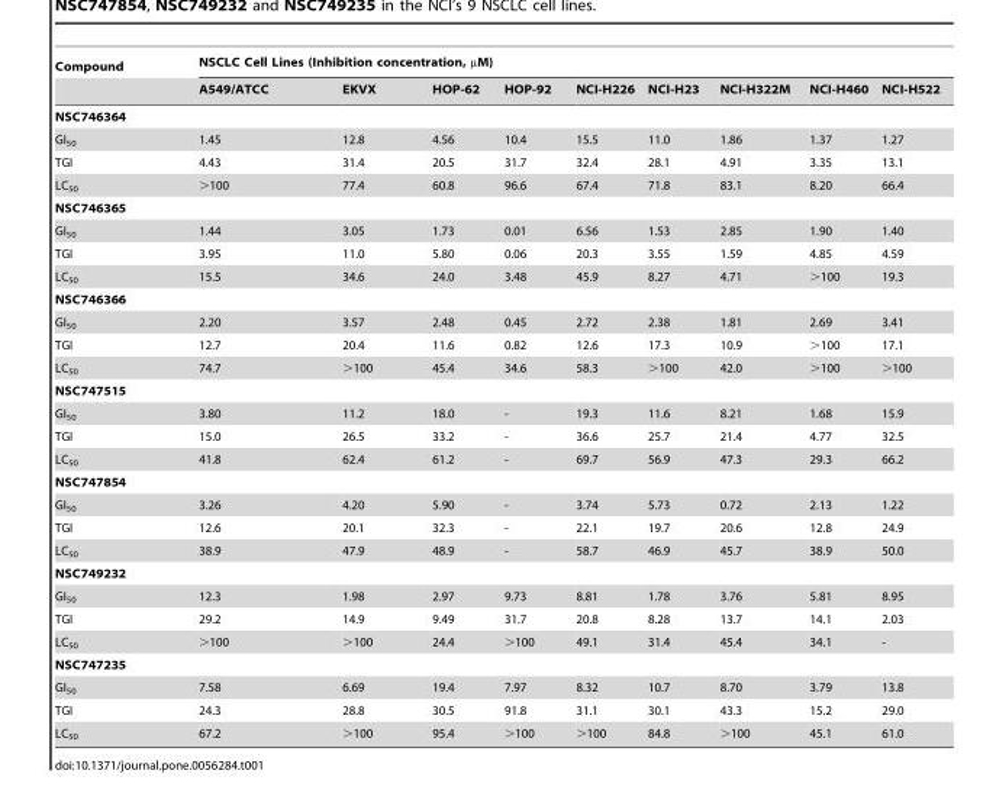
<table><thead><tr><td rowspan="2">Compound</td><td colspan="9">NSCLC Cell Lines (Inhibition concentration, µM)</td></tr><tr><td>A549/ATCC</td><td>EKVX</td><td>HOP-62</td><td>HOP-92</td><td>NCI-H226</td><td>NCI-H23</td><td>NCI-H322M</td><td>NCI-H460</td><td>NCI-H522</td></tr></thead><tbody><tr><td colspan="10">NSC746364</td></tr><tr><td>GI<sub>50</sub></td><td>1.45</td><td>12.8</td><td>4.56</td><td>10.4</td><td>15.5</td><td>11.0</td><td>1.86</td><td>1.37</td><td>1.27</td></tr><tr><td>TGI</td><td>4.43</td><td>31.4</td><td>20.5</td><td>31.7</td><td>32.4</td><td>28.1</td><td>4.91</td><td>3.35</td><td>13.1</td></tr><tr><td>LC<sub>50</sub></td><td>&gt;100</td><td>77.4</td><td>60.8</td><td>96.6</td><td>67.4</td><td>71.8</td><td>83.1</td><td>8.20</td><td>66.4</td></tr><tr><td colspan="10">NSC746365</td></tr><tr><td>GI<sub>50</sub></td><td>1.44</td><td>3.05</td><td>1.73</td><td>0.01</td><td>6.56</td><td>1.53</td><td>2.85</td><td>1.90</td><td>1.40</td></tr><tr><td>TGI</td><td>3.95</td><td>11.0</td><td>5.80</td><td>0.06</td><td>20.3</td><td>3.55</td><td>1.59</td><td>4.85</td><td>4.59</td></tr><tr><td>LC<sub>50</sub></td><td>15.5</td><td>34.6</td><td>24.0</td><td>3.48</td><td>45.9</td><td>8.27</td><td>4.71</td><td>&gt;100</td><td>19.3</td></tr><tr><td colspan="10">NSC746366</td></tr><tr><td>GI<sub>50</sub></td><td>2.20</td><td>3.57</td><td>2.48</td><td>0.45</td><td>2.72</td><td>2.38</td><td>1.81</td><td>2.69</td><td>3.41</td></tr><tr><td>TGI</td><td>12.7</td><td>20.4</td><td>11.6</td><td>0.82</td><td>12.6</td><td>17.3</td><td>10.9</td><td>&gt;100</td><td>17.1</td></tr><tr><td>LC<sub>50</sub></td><td>74.7</td><td>&gt;100</td><td>45.4</td><td>34.6</td><td>58.3</td><td>&gt;100</td><td>42.0</td><td>&gt;100</td><td>&gt;100</td></tr><tr><td colspan="10">NSC747515</td></tr><tr><td>GI<sub>50</sub></td><td>3.80</td><td>11.2</td><td>18.0</td><td>-</td><td>19.3</td><td>11.6</td><td>8.21</td><td>1.68</td><td>15.9</td></tr><tr><td>TGI</td><td>15.0</td><td>26.5</td><td>33.2</td><td>-</td><td>36.6</td><td>25.7</td><td>21.4</td><td>4.77</td><td>32.5</td></tr><tr><td>LC<sub>50</sub></td><td>41.8</td><td>62.4</td><td>61.2</td><td>-</td><td>69.7</td><td>56.9</td><td>47.3</td><td>29.3</td><td>66.2</td></tr><tr><td colspan="10">NSC747854</td></tr><tr><td>GI<sub>50</sub></td><td>3.26</td><td>4.20</td><td>5.90</td><td>-</td><td>3.74</td><td>5.73</td><td>0.72</td><td>2.13</td><td>1.22</td></tr><tr><td>TGI</td><td>12.6</td><td>20.1</td><td>32.3</td><td>-</td><td>22.1</td><td>19.7</td><td>20.6</td><td>12.8</td><td>24.9</td></tr><tr><td>LC<sub>50</sub></td><td>38.9</td><td>47.9</td><td>48.9</td><td>-</td><td>58.7</td><td>46.9</td><td>45.7</td><td>38.9</td><td>50.0</td></tr><tr><td colspan="10">NSC749232</td></tr><tr><td>GI<sub>50</sub></td><td>12.3</td><td>1.98</td><td>2.97</td><td>9.73</td><td>8.81</td><td>1.78</td><td>3.76</td><td>5.81</td><td>8.95</td></tr><tr><td>TGI</td><td>29.2</td><td>14.9</td><td>9.49</td><td>31.7</td><td>20.8</td><td>8.28</td><td>13.7</td><td>14.1</td><td>2.03</td></tr><tr><td>LC<sub>50</sub></td><td>&gt;100</td><td>&gt;100</td><td>24.4</td><td>&gt;100</td><td>49.1</td><td>31.4</td><td>45.4</td><td>34.1</td><td>-</td></tr><tr><td colspan="10">NSC747235</td></tr><tr><td>GI<sub>50</sub></td><td>7.58</td><td>6.69</td><td>19.4</td><td>7.97</td><td>8.32</td><td>10.7</td><td>8.70</td><td>3.79</td><td>13.8</td></tr><tr><td>TGI</td><td>24.3</td><td>28.8</td><td>30.5</td><td>91.8</td><td>31.1</td><td>30.1</td><td>43.3</td><td>15.2</td><td>29.0</td></tr><tr><td>LC<sub>50</sub></td><td>67.2</td><td>&gt;100</td><td>95.4</td><td>&gt;100</td><td>&gt;100</td><td>84.8</td><td>&gt;100</td><td>45.1</td><td>61.0</td></tr></tbody></table>